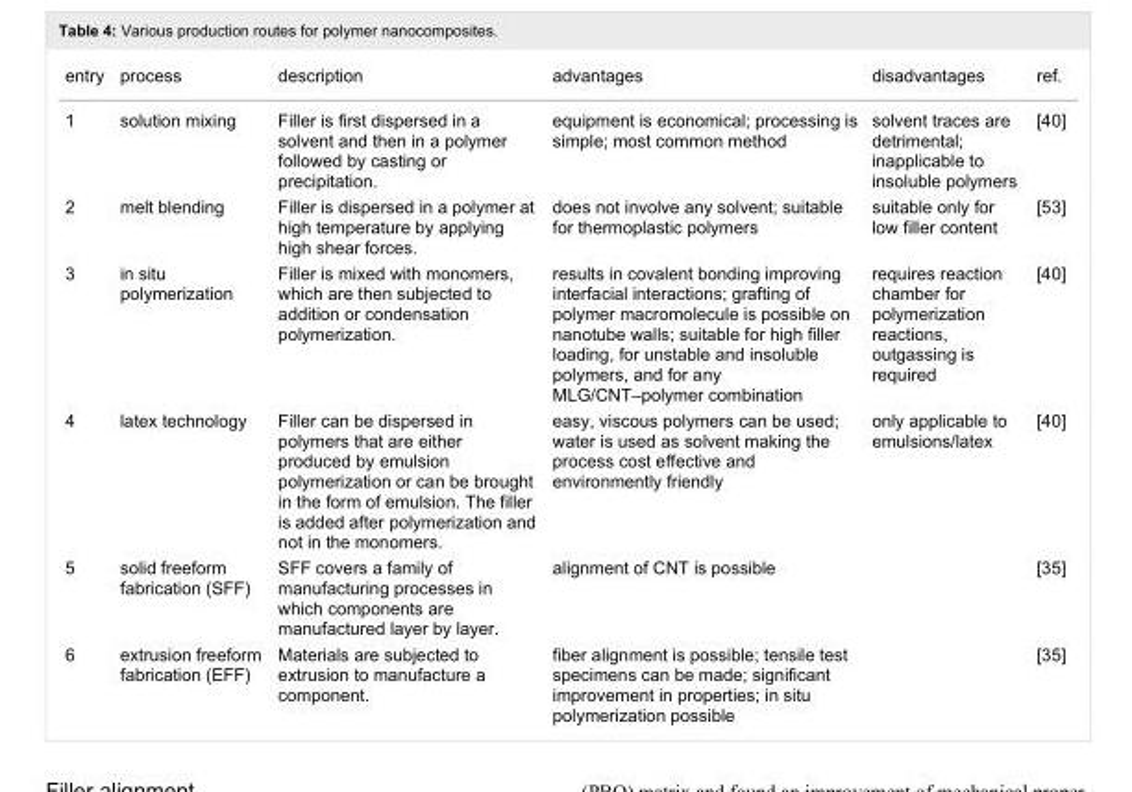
<table><tbody><tr><td>entry</td><td>process</td><td>description</td><td>advantages</td><td>disadvantages</td><td>ref.</td></tr><tr><td>1</td><td>solution mixing</td><td>Filler is first dispersed in a solvent and then in a polymer followed by casting or precipitation.</td><td>equipment is economical; processing is simple; most common method</td><td>solvent traces are detrimental; inapplicable to insoluble polymers</td><td>[40]</td></tr><tr><td>2</td><td>melt blending</td><td>Filler is dispersed in a polymer at high temperature by applying high shear forces.</td><td>does not involve any solvent; suitable for thermoplastic polymers</td><td>suitable only for low filler content</td><td>[53]</td></tr><tr><td>3</td><td>in situ polymerization</td><td>Filler is mixed with monomers, which are then subjected to addition or condensation polymerization.</td><td>results in covalent bonding improving interfacial interactions; grafting of polymer macromolecule is possible on nanotube walls; suitable for high filler loading, for unstable and insoluble polymers, and for any MLG/CNT–polymer combination</td><td>requires reaction chamber for polymerization reactions, outgassing is required</td><td>[40]</td></tr><tr><td>4</td><td>latex technology</td><td>Filler can be dispersed in polymers that are either produced by emulsion polymerization or can be brought in the form of emulsion. The filler is added after polymerization and not in the monomers.</td><td>easy, viscous polymers can be used; water is used as solvent making the process cost effective and environmently friendly</td><td>only applicable to emulsions/latex</td><td>[40]</td></tr><tr><td>5</td><td>solid freeform fabrication (SFF)</td><td>SFF covers a family of manufacturing processes in which components are manufactured layer by layer.</td><td>alignment of CNT is possible</td><td></td><td>[35]</td></tr><tr><td>6</td><td>extrusion freeform fabrication (EFF)</td><td>Materials are subjected to extrusion to manufacture a component.</td><td>fiber alignment is possible; tensile test specimens can be made; significant improvement in properties; in situ polymerization possible</td><td></td><td>[35]</td></tr></tbody></table>